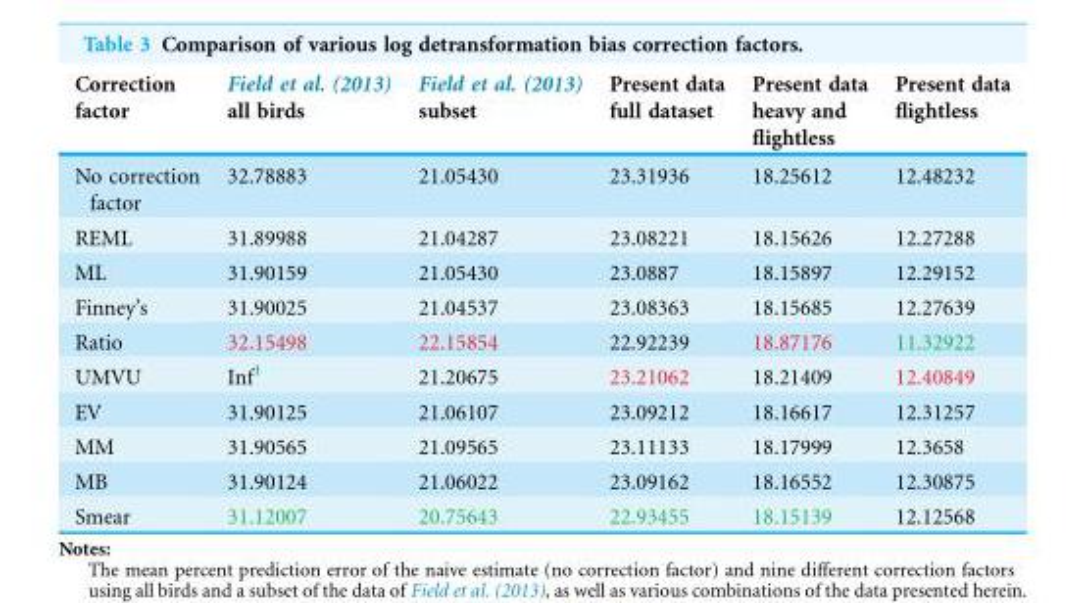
<table><thead><tr><td>Correction factor</td><td>Field et al. (2013) all birds</td><td>Field et al. (2013) subset</td><td>Present data full dataset</td><td>Present data heavy and flightless</td><td>Present data flightless</td></tr></thead><tbody><tr><td>No correction factor</td><td>32.78883</td><td>21.05430</td><td>23.31936</td><td>18.25612</td><td>12.48232</td></tr><tr><td>REML</td><td>31.89988</td><td>21.04287</td><td>23.08221</td><td>18.15626</td><td>12.27288</td></tr><tr><td>ML</td><td>31.90159</td><td>21.05430</td><td>23.0887</td><td>18.15897</td><td>12.29152</td></tr><tr><td>Finney’s</td><td>31.90025</td><td>21.04537</td><td>23.08363</td><td>18.15685</td><td>12.27639</td></tr><tr><td>Ratio</td><td>32.15498</td><td>22.15854</td><td>22.92239</td><td>18.87176</td><td>11.32922</td></tr><tr><td>UMVU</td><td>Inf<sup>1</sup></td><td>21.20675</td><td>23.21062</td><td>18.21409</td><td>12.40849</td></tr><tr><td>EV</td><td>31.90125</td><td>21.06107</td><td>23.09212</td><td>18.16617</td><td>12.31257</td></tr><tr><td>MM</td><td>31.90565</td><td>21.09565</td><td>23.11133</td><td>18.17999</td><td>12.3658</td></tr><tr><td>MB</td><td>31.90124</td><td>21.06022</td><td>23.09162</td><td>18.16552</td><td>12.30875</td></tr><tr><td>Smear</td><td>31.12007</td><td>20.75643</td><td>22.93455</td><td>18.15139</td><td>12.12568</td></tr></tbody></table>